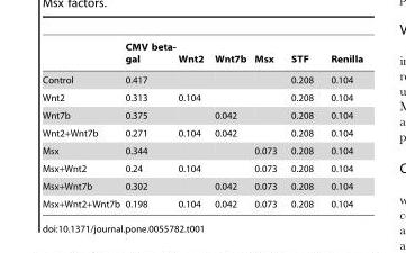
<table><thead><tr><td></td><td>CMV beta- gal</td><td>Wnt2</td><td>Wnt7b</td><td>Msx</td><td>STF</td><td>Renilla</td></tr></thead><tbody><tr><td>Control</td><td>0.417</td><td></td><td></td><td></td><td>0.208</td><td>0.104</td></tr><tr><td>Wnt2</td><td>0.313</td><td>0.104</td><td></td><td></td><td>0.208</td><td>0.104</td></tr><tr><td>Wnt7b</td><td>0.375</td><td></td><td>0.042</td><td></td><td>0.208</td><td>0.104</td></tr><tr><td>Wnt2+Wnt7b</td><td>0.271</td><td>0.104</td><td>0.042</td><td></td><td>0.208</td><td>0.104</td></tr><tr><td>Msx</td><td>0.344</td><td></td><td></td><td>0.073</td><td>0.208</td><td>0.104</td></tr><tr><td>Msx+Wnt2</td><td>0.24</td><td>0.104</td><td></td><td>0.073</td><td>0.208</td><td>0.104</td></tr><tr><td>Msx+Wnt7b</td><td>0.302</td><td></td><td>0.042</td><td>0.073</td><td>0.208</td><td>0.104</td></tr><tr><td>Msx+Wnt2+Wnt7b</td><td>0.198</td><td>0.104</td><td>0.042</td><td>0.073</td><td>0.208</td><td>0.104</td></tr></tbody></table>